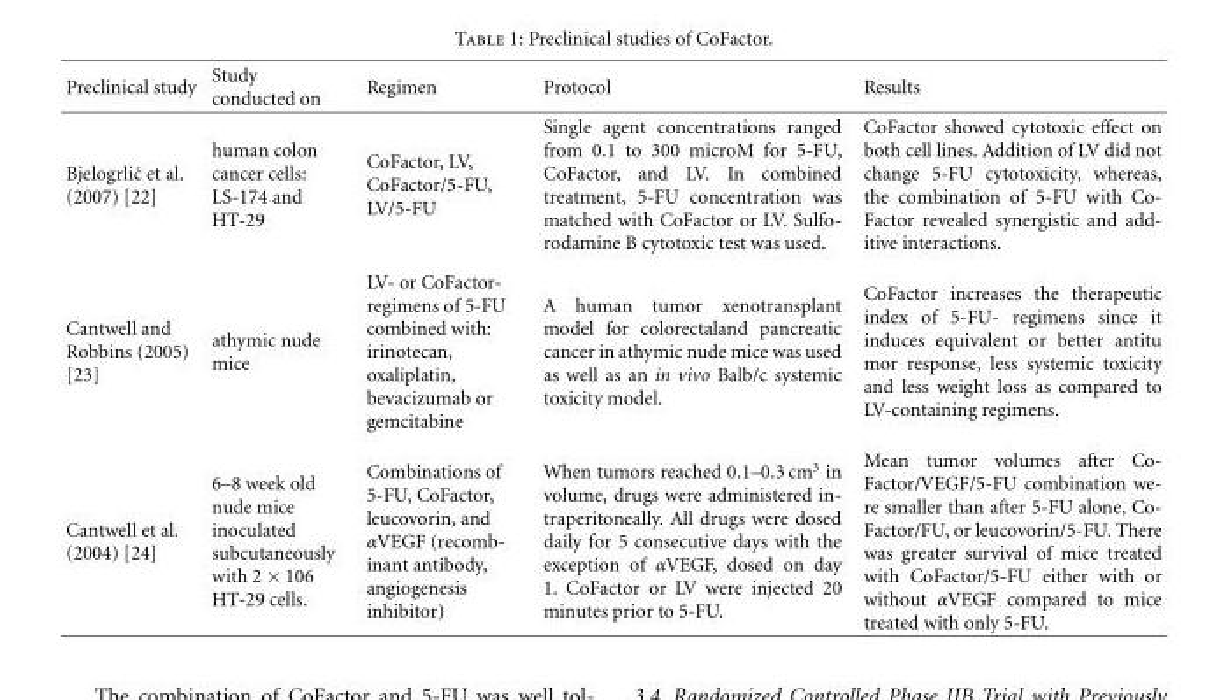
<table><thead><tr><td>Preclinical study</td><td>Study conducted on</td><td>Regimen</td><td>Protocol</td><td>Results</td></tr></thead><tbody><tr><td>Bjelogrli´c et al. (2007) [22]</td><td>human colon cancer cells: LS-174 and HT-29</td><td>CoFactor, LV, CoFactor/5-FU, LV/5-FU</td><td>Single agent concentrations ranged from 0.1 to 300 microM for 5-FU, CoFactor, and LV. In combined treatment, 5-FU concentration was matched with CoFactor or LV. Sulfo- rodamine B cytotoxic test was used.</td><td>CoFactor showed cytotoxic effect on both cell lines. Addition of LV did not change 5-FU cytotoxicity, whereas, the combination of 5-FU with Co- Factor revealed synergistic and add- itive interactions.</td></tr><tr><td>Cantwell and Robbins (2005) [23]</td><td>athymic nude mice</td><td>LV- or CoFactor- regimens of 5-FU combined with: irinotecan, oxaliplatin, bevacizumab or gemcitabine</td><td>A human tumor xenotransplant model for colorectaland pancreatic cancer in athymic nude mice was used as well as an in vivo Balb/c systemic toxicity model.</td><td>CoFactor increases the therapeutic index of 5-FU- regimens since it induces equivalent or better antitu mor response, less systemic toxicity and less weight loss as compared to LV-containing regimens.</td></tr><tr><td>Cantwell et al. (2004) [24]</td><td>6–8 week old nude mice inoculated subcutaneously with 2 × 106 HT-29 cells.</td><td>Combinations of 5-FU, CoFactor, leucovorin, and αVEGF (recomb- inant antibody, angiogenesis inhibitor)</td><td>When tumors reached 0.1–0.3 cm3 in volume, drugs were administered in- traperitoneally. All drugs were dosed daily for 5 consecutive days with the exception of αVEGF, dosed on day 1. CoFactor or LV were injected 20 minutes prior to 5-FU.</td><td>Mean tumor volumes after Co- Factor/VEGF/5-FU combination we- re smaller than after 5-FU alone, Co- Factor/FU, or leucovorin/5-FU. There was greater survival of mice treated with CoFactor/5-FU either with or without αVEGF compared to mice treated with only 5-FU.</td></tr></tbody></table>